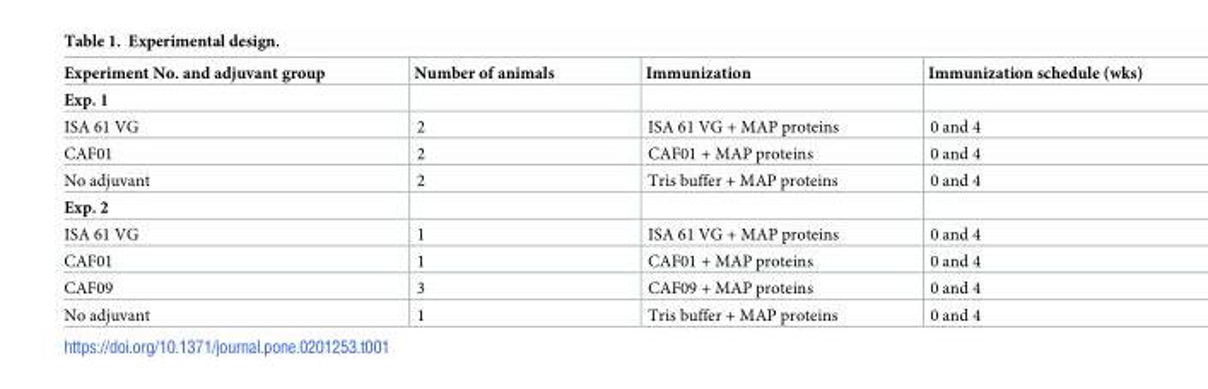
<table><thead><tr><td>Experiment No. and adjuvant group</td><td>Number of animals</td><td>Immunization</td><td>Immunization schedule (wks)</td></tr></thead><tbody><tr><td colspan="4">Exp. 1</td></tr><tr><td>ISA 61 VG</td><td>2</td><td>ISA 61 VG + MAP proteins</td><td>0 and 4</td></tr><tr><td>CAF01</td><td>2</td><td>CAF01 + MAP proteins</td><td>0 and 4</td></tr><tr><td>No adjuvant</td><td>2</td><td>Tris buffer + MAP proteins</td><td>0 and 4</td></tr><tr><td colspan="4">Exp. 2</td></tr><tr><td>ISA 61 VG</td><td>1</td><td>ISA 61 VG + MAP proteins</td><td>0 and 4</td></tr><tr><td>CAF01</td><td>1</td><td>CAF01 + MAP proteins</td><td>0 and 4</td></tr><tr><td>CAF09</td><td>3</td><td>CAF09 + MAP proteins</td><td>0 and 4</td></tr><tr><td>No adjuvant</td><td>1</td><td>Tris buffer + MAP proteins</td><td>0 and 4</td></tr></tbody></table>